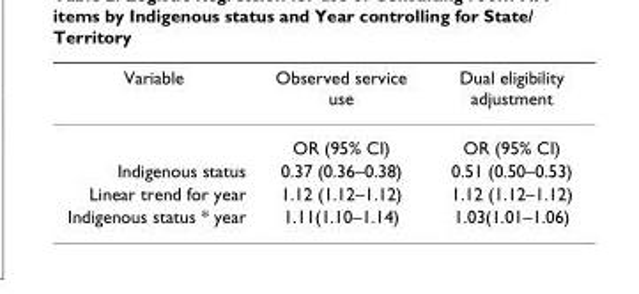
<table><thead><tr><td>Variable</td><td>Observed service use</td><td>Dual eligibility adjustment</td></tr></thead><tbody><tr><td></td><td>OR (95% CI)</td><td>OR (95% CI)</td></tr><tr><td>Indigenous status</td><td>0.37 (0.36–0.38)</td><td>0.51 (0.50–0.53)</td></tr><tr><td>Linear trend for year</td><td>1.12 (1.12–1.12)</td><td>1.12 (1.12–1.12)</td></tr><tr><td>Indigenous status * year</td><td>1.11(1.10–1.14)</td><td>1.03(1.01–1.06)</td></tr></tbody></table>